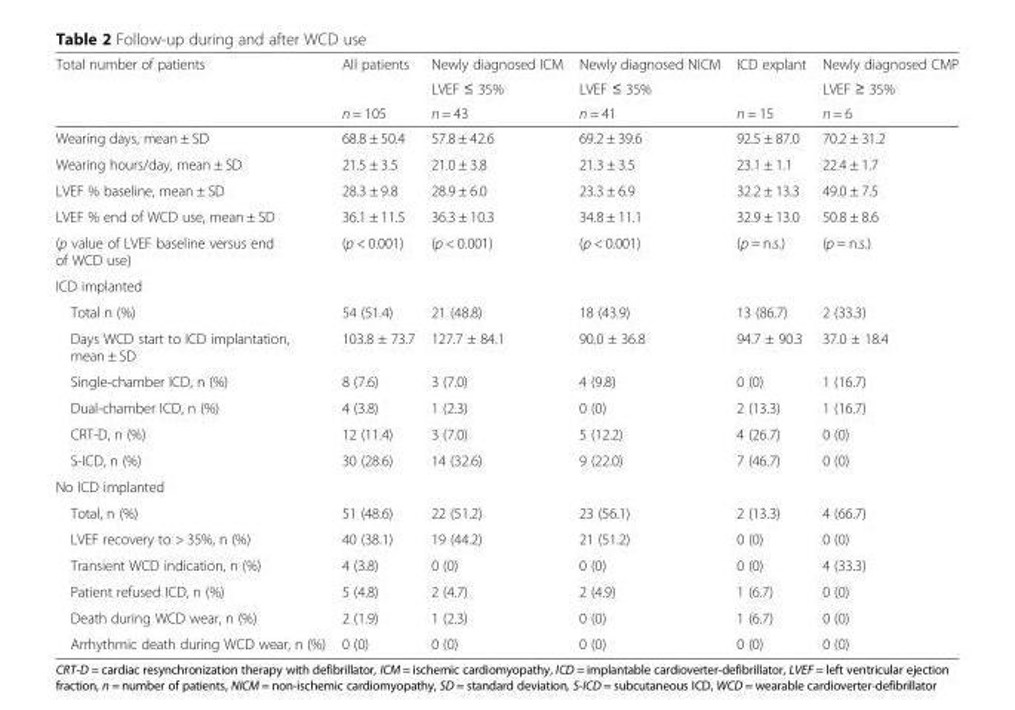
<table><thead><tr><td rowspan="3">Total number of patients</td><td rowspan="3">All patients n = 105</td><td rowspan="3">Newly diagnosed ICM LVEF ≤ 35% n = 43</td><td rowspan="3">Newly diagnosed NICM LVEF ≤ 35% n = 41</td><td rowspan="3">ICD explant n = 15</td><td rowspan="3">Newly diagnosed CMP LVEF ≥ 35% n = 6</td></tr><tr></tr><tr></tr></thead><tbody><tr><td>Wearing days, mean ± SD</td><td>68.8 ± 50.4</td><td>57.8 ± 42.6</td><td>69.2 ± 39.6</td><td>92.5 ± 87.0</td><td>70.2 ± 31.2</td></tr><tr><td>Wearing hours/day, mean ± SD</td><td>21.5 ± 3.5</td><td>21.0 ± 3.8</td><td>21.3 ± 3.5</td><td>23.1 ± 1.1</td><td>22.4 ± 1.7</td></tr><tr><td>LVEF % baseline, mean ± SD</td><td>28.3 ± 9.8</td><td>28.9 ± 6.0</td><td>23.3 ± 6.9</td><td>32.2 ± 13.3</td><td>49.0 ± 7.5</td></tr><tr><td>LVEF % end of WCD use, mean ± SD</td><td>36.1 ± 11.5</td><td>36.3 ± 10.3</td><td>34.8 ± 11.1</td><td>32.9 ± 13.0</td><td>50.8 ± 8.6</td></tr><tr><td>(p value of LVEF baseline versus end of WCD use)</td><td>(p &lt; 0.001)</td><td>(p &lt; 0.001)</td><td>(p &lt; 0.001)</td><td>(p = n.s.)</td><td>(p = n.s.)</td></tr><tr><td colspan="6">ICD implanted</td></tr><tr><td>Total n (%)</td><td>54 (51.4)</td><td>21 (48.8)</td><td>18 (43.9)</td><td>13 (86.7)</td><td>2 (33.3)</td></tr><tr><td>Days WCD start to ICD implantation, mean ± SD</td><td>103.8 ± 73.7</td><td>127.7 ± 84.1</td><td>90.0 ± 36.8</td><td>94.7 ± 90.3</td><td>37.0 ± 18.4</td></tr><tr><td>Single-chamber ICD, n (%)</td><td>8 (7.6)</td><td>3 (7.0)</td><td>4 (9.8)</td><td>0 (0)</td><td>1 (16.7)</td></tr><tr><td>Dual-chamber ICD, n (%)</td><td>4 (3.8)</td><td>1 (2.3)</td><td>0 (0)</td><td>2 (13.3)</td><td>1 (16.7)</td></tr><tr><td>CRT-D, n (%)</td><td>12 (11.4)</td><td>3 (7.0)</td><td>5 (12.2)</td><td>4 (26.7)</td><td>0 (0)</td></tr><tr><td>S-ICD, n (%)</td><td>30 (28.6)</td><td>14 (32.6)</td><td>9 (22.0)</td><td>7 (46.7)</td><td>0 (0)</td></tr><tr><td colspan="6">No ICD implanted</td></tr><tr><td>Total, n (%)</td><td>51 (48.6)</td><td>22 (51.2)</td><td>23 (56.1)</td><td>2 (13.3)</td><td>4 (66.7)</td></tr><tr><td>LVEF recovery to &gt; 35%, n (%)</td><td>40 (38.1)</td><td>19 (44.2)</td><td>21 (51.2)</td><td>0 (0)</td><td>0 (0)</td></tr><tr><td>Transient WCD indication, n (%)</td><td>4 (3.8)</td><td>0 (0)</td><td>0 (0)</td><td>0 (0)</td><td>4 (33.3)</td></tr><tr><td>Patient refused ICD, n (%)</td><td>5 (4.8)</td><td>2 (4.7)</td><td>2 (4.9)</td><td>1 (6.7)</td><td>0 (0)</td></tr><tr><td>Death during WCD wear, n (%)</td><td>2 (1.9)</td><td>1 (2.3)</td><td>0 (0)</td><td>1 (6.7)</td><td>0 (0)</td></tr><tr><td>Arrhythmic death during WCD wear, n (%)</td><td>0 (0)</td><td>0 (0)</td><td>0 (0)</td><td>0 (0)</td><td>0 (0)</td></tr></tbody></table>